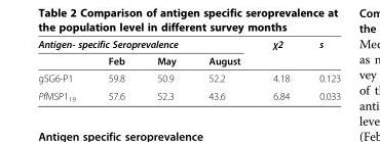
<table><thead><tr><td colspan="4">Antigen- specific Seroprevalence</td><td rowspan="2">χ2</td><td rowspan="2">s</td></tr><tr><td></td><td>Feb</td><td>May</td><td>August</td></tr></thead><tbody><tr><td>gSG6-P1</td><td>59.8</td><td>50.9</td><td>52.2</td><td>4.18</td><td>0.123</td></tr><tr><td>PfMSP1<sub>19</sub></td><td>57.6</td><td>52.3</td><td>43.6</td><td>6.84</td><td>0.033</td></tr></tbody></table>